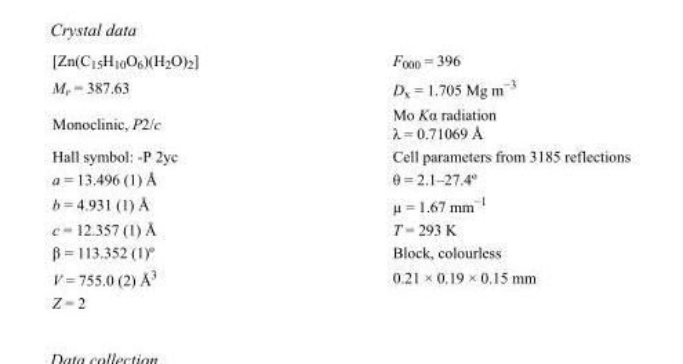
<table><tbody><tr><td>[Zn(C<sub>15</sub>H<sub>10</sub>O<sub>6</sub>)(H<sub>2</sub>O)<sub>2</sub>]</td><td>F000 = 396</td></tr><tr><td>M<sub>r</sub> = 387.63</td><td>D<sub>x</sub> = 1.705 Mg m<sup>−3</sup></td></tr><tr><td>Monoclinic, P2/c</td><td>Mo Kα radiation λ = 0.71069 Å</td></tr><tr><td>Hall symbol: -P 2yc</td><td>Cell parameters from 3185 reflections</td></tr><tr><td>a = 13.496 (1) Å</td><td>θ = 2.1–27.4º</td></tr><tr><td>b = 4.931 (1) Å</td><td>µ = 1.67 mm<sup>−1</sup></td></tr><tr><td>c = 12.357 (1) Å</td><td>T = 293 K</td></tr><tr><td>β = 113.352 (1)º</td><td>Block, colourless</td></tr><tr><td>V = 755.0 (2) Å<sup>3</sup></td><td>0.21 × 0.19 × 0.15 mm</td></tr><tr><td>Z = 2</td><td></td></tr></tbody></table>